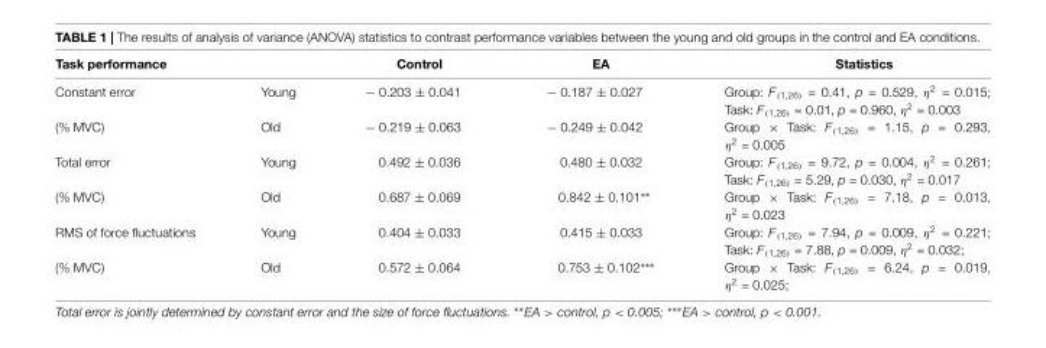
<table><thead><tr><td>Task performance</td><td></td><td>Control</td><td>EA</td><td>Statistics</td></tr></thead><tbody><tr><td>Constant error</td><td>Young</td><td>− 0.203 ± 0.041</td><td>− 0.187 ± 0.027</td><td>Group: F<sub>(1,26)</sub> = 0.41, p = 0.529, η<sup>2</sup> = 0.015; Task: F<sub>(1,26)</sub> = 0.01, p = 0.960, η<sup>2</sup> = 0.003</td></tr><tr><td>(% MVC)</td><td>Old</td><td>− 0.219 ± 0.063</td><td>− 0.249 ± 0.042</td><td>Group × Task: F<sub>(1,26)</sub> = 1.15, p = 0.293, η<sup>2</sup> = 0.005</td></tr><tr><td>Total error</td><td>Young</td><td>0.492 ± 0.036</td><td>0.480 ± 0.032</td><td>Group: F<sub>(1,26)</sub> = 9.72, p = 0.004, η<sup>2</sup> = 0.261; Task: F<sub>(1,26)</sub> = 5.29, p = 0.030, η<sup>2</sup> = 0.017</td></tr><tr><td>(% MVC)</td><td>Old</td><td>0.687 ± 0.069</td><td>0.842 ± 0.101∗∗</td><td>Group × Task: F<sub>(1,26)</sub> = 7.18, p = 0.013, η<sup>2</sup> = 0.023</td></tr><tr><td>RMS of force fluctuations</td><td>Young</td><td>0.404 ± 0.033</td><td>0.415 ± 0.033</td><td>Group: F<sub>(1,26)</sub> = 7.94, p = 0.009, η<sup>2</sup> = 0.221; Task: F<sub>(1,26)</sub> = 7.88, p = 0.009, η<sup>2</sup> = 0.032;</td></tr><tr><td>(% MVC)</td><td>Old</td><td>0.572 ± 0.064</td><td>0.753 ± 0.102∗∗∗</td><td>Group × Task: F<sub>(1,26)</sub> = 6.24, p = 0.019, η<sup>2</sup> = 0.025;</td></tr></tbody></table>